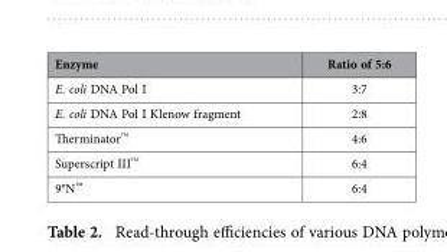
<table><thead><tr><td>Enzyme</td><td>Ratio of 5:6</td></tr></thead><tbody><tr><td>E. coli DNA Pol I</td><td>3:7</td></tr><tr><td>E. coli DNA Pol I Klenow fragment</td><td>2:8</td></tr><tr><td>Therminator™</td><td>4:6</td></tr><tr><td>Superscript III™</td><td>6:4</td></tr><tr><td>9°N™</td><td>6:4</td></tr></tbody></table>